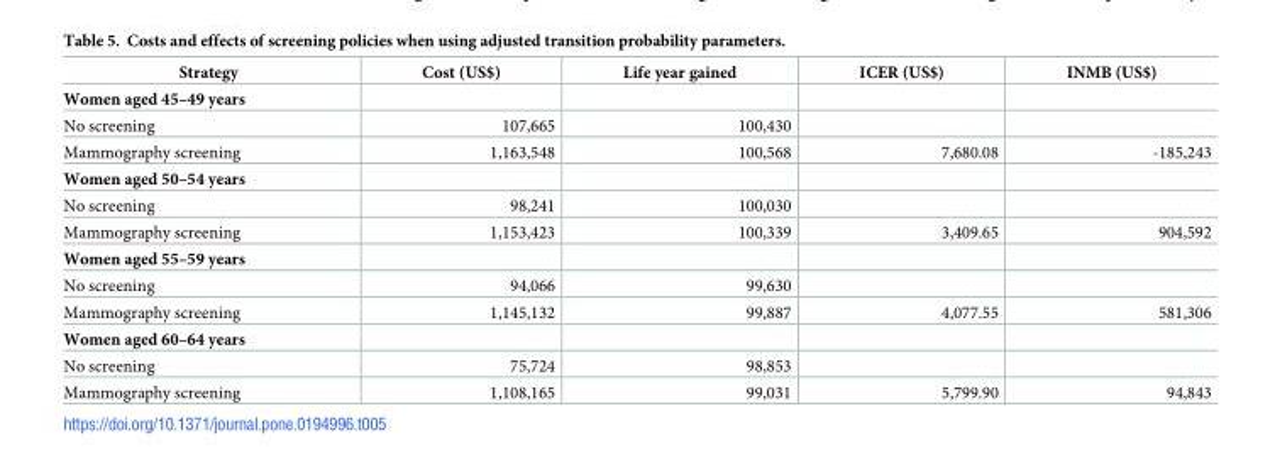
<table><thead><tr><td>Strategy</td><td>Cost (US$)</td><td>Life year gained</td><td>ICER (US$)</td><td>INMB (US$)</td></tr></thead><tbody><tr><td colspan="5">Women aged 45–49 years</td></tr><tr><td>No screening</td><td>107,665</td><td>100,430</td><td></td><td></td></tr><tr><td>Mammography screening</td><td>1,163,548</td><td>100,568</td><td>7,680.08</td><td>-185,243</td></tr><tr><td colspan="5">Women aged 50–54 years</td></tr><tr><td>No screening</td><td>98,241</td><td>100,030</td><td></td><td></td></tr><tr><td>Mammography screening</td><td>1,153,423</td><td>100,339</td><td>3,409.65</td><td>904,592</td></tr><tr><td colspan="5">Women aged 55–59 years</td></tr><tr><td>No screening</td><td>94,066</td><td>99,630</td><td></td><td></td></tr><tr><td>Mammography screening</td><td>1,145,132</td><td>99,887</td><td>4,077.55</td><td>581,306</td></tr><tr><td colspan="5">Women aged 60–64 years</td></tr><tr><td>No screening</td><td>75,724</td><td>98,853</td><td></td><td></td></tr><tr><td>Mammography screening</td><td>1,108,165</td><td>99,031</td><td>5,799.90</td><td>94,843</td></tr></tbody></table>